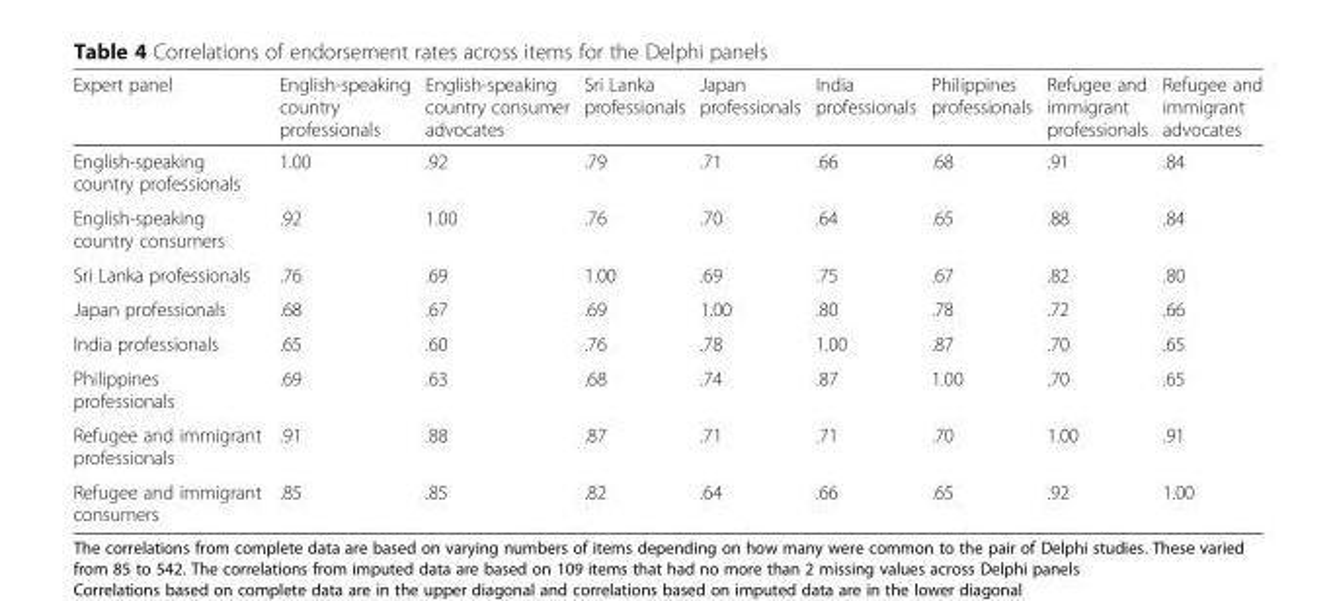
<table><thead><tr><td>Expert panel</td><td>English-speaking country professionals</td><td>English-speaking country consumer advocates</td><td>Sri Lanka professionals</td><td>Japan professionals</td><td>India professionals</td><td>Philippines professionals</td><td>Refugee and immigrant professionals</td><td>Refugee and immigrant advocates</td></tr></thead><tbody><tr><td>English-speaking country professionals</td><td>1.00</td><td>.92</td><td>.79</td><td>.71</td><td>.66</td><td>.68</td><td>.91</td><td>.84</td></tr><tr><td>English-speaking country consumers</td><td>.92</td><td>1.00</td><td>.76</td><td>.70</td><td>.64</td><td>.65</td><td>.88</td><td>.84</td></tr><tr><td>Sri Lanka professionals</td><td>.76</td><td>.69</td><td>1.00</td><td>.69</td><td>.75</td><td>.67</td><td>.82</td><td>.80</td></tr><tr><td>Japan professionals</td><td>.68</td><td>.67</td><td>.69</td><td>1.00</td><td>.80</td><td>.78</td><td>.72</td><td>.66</td></tr><tr><td>India professionals</td><td>.65</td><td>.60</td><td>.76</td><td>.78</td><td>1.00</td><td>.87</td><td>.70</td><td>.65</td></tr><tr><td>Philippines professionals</td><td>.69</td><td>.63</td><td>.68</td><td>.74</td><td>.87</td><td>1.00</td><td>.70</td><td>.65</td></tr><tr><td>Refugee and immigrant professionals</td><td>.91</td><td>.88</td><td>.87</td><td>.71</td><td>.71</td><td>.70</td><td>1.00</td><td>.91</td></tr><tr><td>Refugee and immigrant consumers</td><td>.85</td><td>.85</td><td>.82</td><td>.64</td><td>.66</td><td>.65</td><td>.92</td><td>1.00</td></tr></tbody></table>